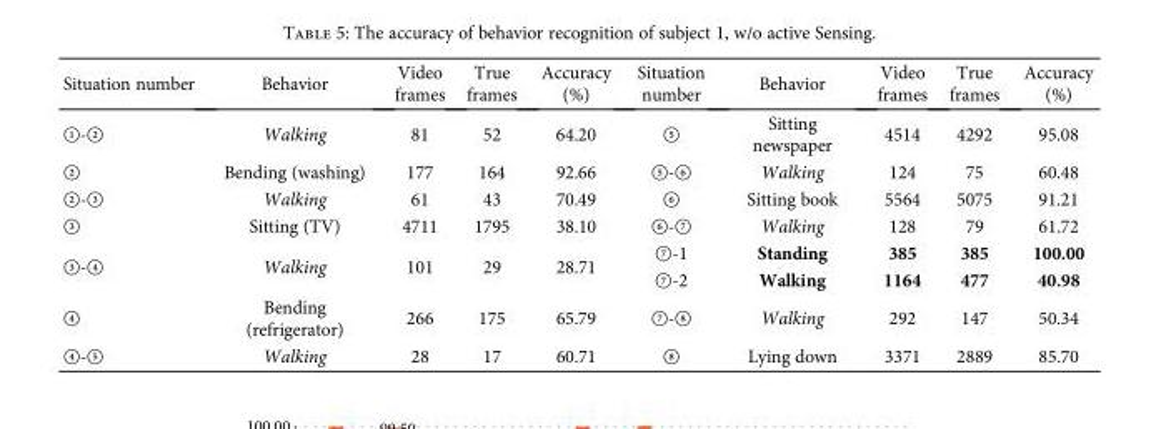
<table><thead><tr><td>Situation number</td><td>Behavior</td><td>Video frames</td><td>True frames</td><td>Accuracy (%)</td><td>Situation number</td><td>Behavior</td><td>Video frames</td><td>True frames</td><td>Accuracy (%)</td></tr></thead><tbody><tr><td>①-②</td><td>Walking</td><td>81</td><td>52</td><td>64.20</td><td>⑤</td><td>Sitting newspaper</td><td>4514</td><td>4292</td><td>95.08</td></tr><tr><td>②</td><td>Bending (washing)</td><td>177</td><td>164</td><td>92.66</td><td>⑤-⑥</td><td>Walking</td><td>124</td><td>75</td><td>60.48</td></tr><tr><td>②-③</td><td>Walking</td><td>61</td><td>43</td><td>70.49</td><td>⑥</td><td>Sitting book</td><td>5564</td><td>5075</td><td>91.21</td></tr><tr><td>③</td><td>Sitting (TV)</td><td>4711</td><td>1795</td><td>38.10</td><td>⑥-⑦</td><td>Walking</td><td>128</td><td>79</td><td>61.72</td></tr><tr><td rowspan="2">③-④</td><td rowspan="2">Walking</td><td rowspan="2">101</td><td rowspan="2">29</td><td rowspan="2">28.71</td><td>⑦-1</td><td>Standing</td><td>385</td><td>385</td><td>100.00</td></tr><tr><td>⑦-2</td><td>Walking</td><td>1164</td><td>477</td><td>40.98</td></tr><tr><td>④</td><td>Bending (refrigerator)</td><td>266</td><td>175</td><td>65.79</td><td>⑦-⑧</td><td>Walking</td><td>292</td><td>147</td><td>50.34</td></tr><tr><td>④-⑤</td><td>Walking</td><td>28</td><td>17</td><td>60.71</td><td>⑧</td><td>Lying down</td><td>3371</td><td>2889</td><td>85.70</td></tr></tbody></table>